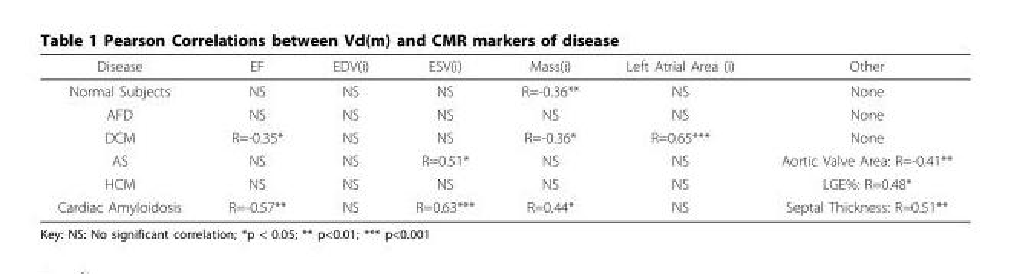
<table><thead><tr><td>Disease</td><td>EF</td><td>EDV(i)</td><td>ESV(i)</td><td>Mass(i)</td><td>Left Atrial Area (i)</td><td>Other</td></tr></thead><tbody><tr><td>Normal Subjects</td><td>NS</td><td>NS</td><td>NS</td><td>R=-0.36**</td><td>NS</td><td>None</td></tr><tr><td>AFD</td><td>NS</td><td>NS</td><td>NS</td><td>NS</td><td>NS</td><td>None</td></tr><tr><td>DCM</td><td>R=-0.35*</td><td>NS</td><td>NS</td><td>R=-0.36*</td><td>R=0.65***</td><td>None</td></tr><tr><td>AS</td><td>NS</td><td>NS</td><td>R=0.51*</td><td>NS</td><td>NS</td><td>Aortic Valve Area: R=-0.41**</td></tr><tr><td>HCM</td><td>NS</td><td>NS</td><td>NS</td><td>NS</td><td>NS</td><td>LGE%: R=0.48*</td></tr><tr><td>Cardiac Amyloidosis</td><td>R=-0.57**</td><td>NS</td><td>R=0.63***</td><td>R=0.44*</td><td>NS</td><td>Septal Thickness: R=0.51**</td></tr></tbody></table>